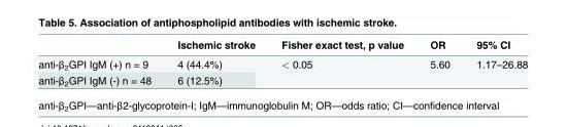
<table><thead><tr><td></td><td>Ischemic stroke</td><td>Fisher exact test, p value</td><td>OR</td><td>95% CI</td></tr></thead><tbody><tr><td>anti-β<sub>2</sub>GPI IgM (+) n = 9</td><td>4 (44.4%)</td><td rowspan="2">&lt; 0.05</td><td rowspan="2">5.60</td><td rowspan="2">1.17–26.88</td></tr><tr><td>anti-β<sub>2</sub>GPI IgM (-) n = 48</td><td>6 (12.5%)</td></tr></tbody></table>